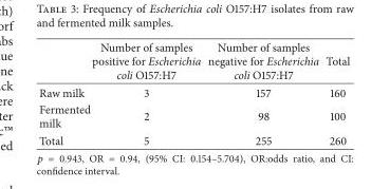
<table><thead><tr><td></td><td>Number of samples positive for Escherichia coli O157:H7</td><td>Number of samples negative for Escherichia coli O157:H7</td><td>Total</td></tr></thead><tbody><tr><td>Raw milk</td><td>3</td><td>157</td><td>160</td></tr><tr><td>Fermented milk</td><td>2</td><td>98</td><td>100</td></tr><tr><td>Total</td><td>5</td><td>255</td><td>260</td></tr></tbody></table>